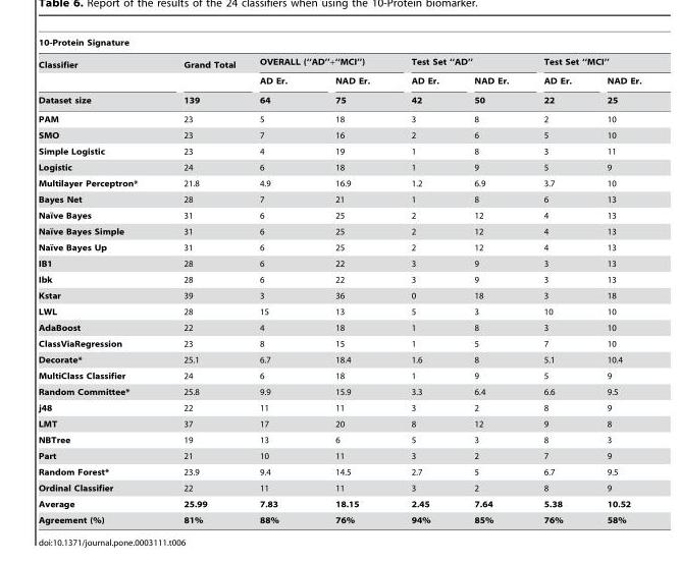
<table><thead><tr><td colspan="8">10-Protein Signature</td></tr><tr><td rowspan="3">Classifier Dataset size</td><td rowspan="3">Grand Total 139</td><td colspan="2">OVERALL (‘‘AD’’+‘‘MCI’’)</td><td colspan="2">Test Set ‘‘AD’’</td><td colspan="2">Test Set ‘‘MCI’’</td></tr><tr><td rowspan="2">AD Er. 64</td><td rowspan="2">NAD Er. 75</td><td rowspan="2">AD Er. 42</td><td rowspan="2">NAD Er. 50</td><td rowspan="2">AD Er. 22</td><td rowspan="2">NAD Er. 25</td></tr><tr></tr></thead><tbody><tr><td>PAM</td><td>23</td><td>5</td><td>18</td><td>3</td><td>8</td><td>2</td><td>10</td></tr><tr><td>SMO</td><td>23</td><td>7</td><td>16</td><td>2</td><td>6</td><td>5</td><td>10</td></tr><tr><td>Simple Logistic</td><td>23</td><td>4</td><td>19</td><td>1</td><td>8</td><td>3</td><td>11</td></tr><tr><td>Logistic</td><td>24</td><td>6</td><td>18</td><td>1</td><td>9</td><td>5</td><td>9</td></tr><tr><td>Multilayer Perceptron*</td><td>21.8</td><td>4.9</td><td>16.9</td><td>1.2</td><td>6.9</td><td>3.7</td><td>10</td></tr><tr><td>Bayes Net</td><td>28</td><td>7</td><td>21</td><td>1</td><td>8</td><td>6</td><td>13</td></tr><tr><td>Naı¨ve Bayes</td><td>31</td><td>6</td><td>25</td><td>2</td><td>12</td><td>4</td><td>13</td></tr><tr><td>Naı¨ve Bayes Simple</td><td>31</td><td>6</td><td>25</td><td>2</td><td>12</td><td>4</td><td>13</td></tr><tr><td>Naı¨ve Bayes Up</td><td>31</td><td>6</td><td>25</td><td>2</td><td>12</td><td>4</td><td>13</td></tr><tr><td>IB1</td><td>28</td><td>6</td><td>22</td><td>3</td><td>9</td><td>3</td><td>13</td></tr><tr><td>Ibk</td><td>28</td><td>6</td><td>22</td><td>3</td><td>9</td><td>3</td><td>13</td></tr><tr><td>Kstar</td><td>39</td><td>3</td><td>36</td><td>0</td><td>18</td><td>3</td><td>18</td></tr><tr><td>LWL</td><td>28</td><td>15</td><td>13</td><td>5</td><td>3</td><td>10</td><td>10</td></tr><tr><td>AdaBoost</td><td>22</td><td>4</td><td>18</td><td>1</td><td>8</td><td>3</td><td>10</td></tr><tr><td>ClassViaRegression</td><td>23</td><td>8</td><td>15</td><td>1</td><td>5</td><td>7</td><td>10</td></tr><tr><td>Decorate*</td><td>25.1</td><td>6.7</td><td>18.4</td><td>1.6</td><td>8</td><td>5.1</td><td>10.4</td></tr><tr><td>MultiClass Classifier</td><td>24</td><td>6</td><td>18</td><td>1</td><td>9</td><td>5</td><td>9</td></tr><tr><td>Random Committee*</td><td>25.8</td><td>9.9</td><td>15.9</td><td>3.3</td><td>6.4</td><td>6.6</td><td>9.5</td></tr><tr><td>j48</td><td>22</td><td>11</td><td>11</td><td>3</td><td>2</td><td>8</td><td>9</td></tr><tr><td>LMT</td><td>37</td><td>17</td><td>20</td><td>8</td><td>12</td><td>9</td><td>8</td></tr><tr><td>NBTree</td><td>19</td><td>13</td><td>6</td><td>5</td><td>3</td><td>8</td><td>3</td></tr><tr><td>Part</td><td>21</td><td>10</td><td>11</td><td>3</td><td>2</td><td>7</td><td>9</td></tr><tr><td>Random Forest*</td><td>23.9</td><td>9.4</td><td>14.5</td><td>2.7</td><td>5</td><td>6.7</td><td>9.5</td></tr><tr><td>Ordinal Classifier</td><td>22</td><td>11</td><td>11</td><td>3</td><td>2</td><td>8</td><td>9</td></tr><tr><td>Average</td><td>25.99</td><td>7.83</td><td>18.15</td><td>2.45</td><td>7.64</td><td>5.38</td><td>10.52</td></tr><tr><td>Agreement (%)</td><td>81%</td><td>88%</td><td>76%</td><td>94%</td><td>85%</td><td>76%</td><td>58%</td></tr></tbody></table>